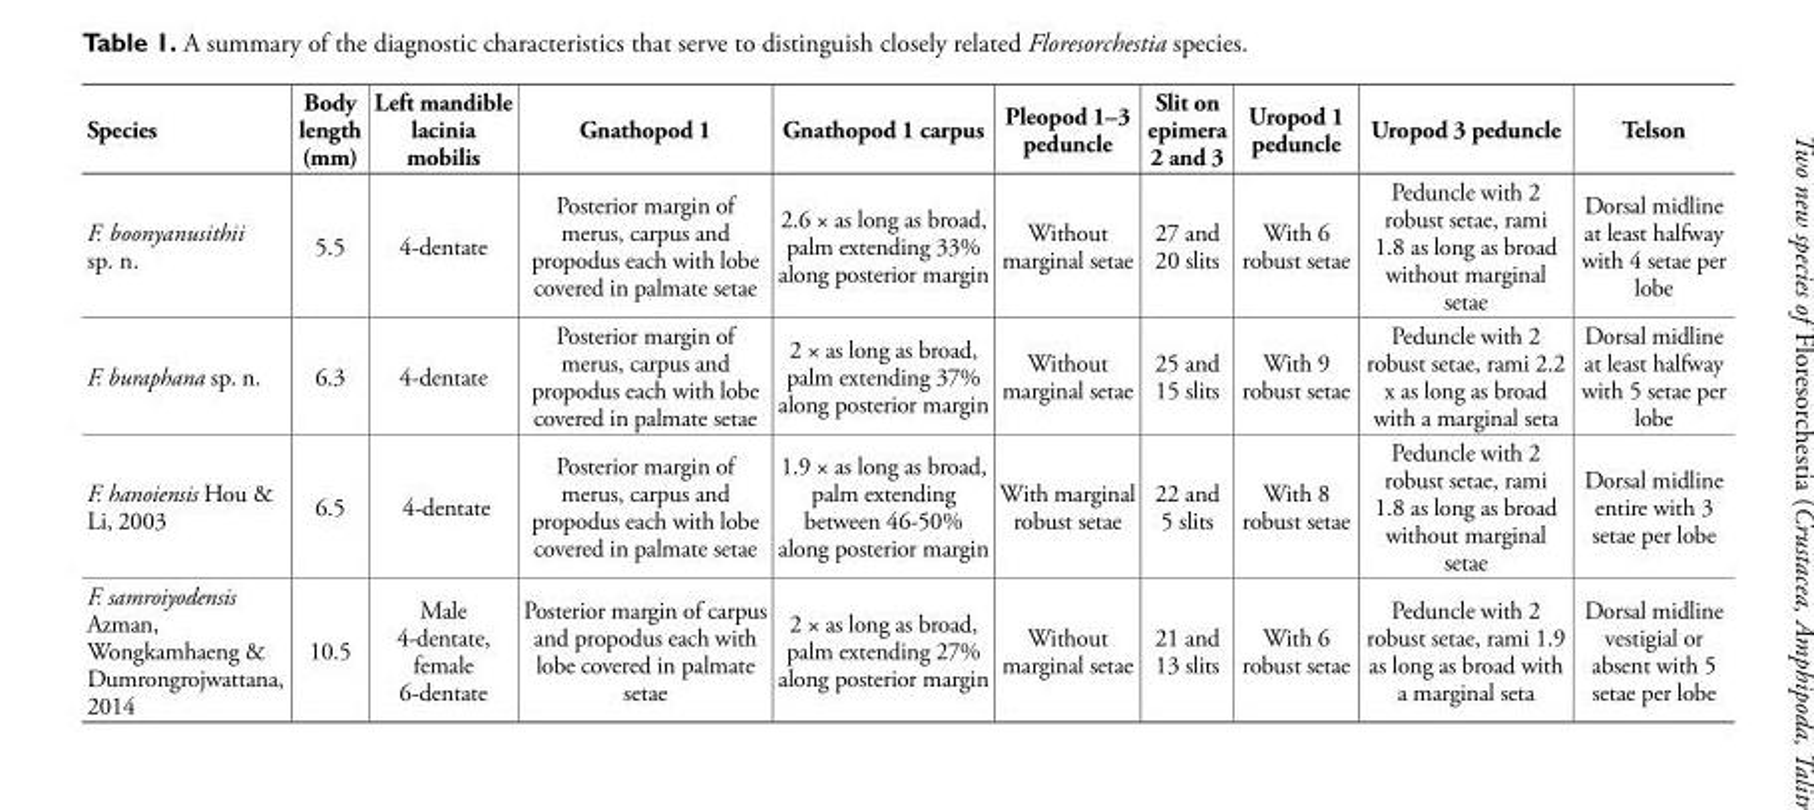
<table><thead><tr><td>Species</td><td>Body length (mm)</td><td>Left mandible lacinia mobilis</td><td>Gnathopod 1</td><td>Gnathopod 1 carpus</td><td>Pleopod 1–3 peduncle</td><td>Slit on epimera 2 and 3</td><td>Uropod 1 peduncle</td><td>Uropod 3 peduncle</td><td>Telson</td></tr></thead><tbody><tr><td>F. boonyanusithii sp. n.</td><td>5.5</td><td>4-dentate</td><td>Posterior margin of merus, carpus and propodus each with lobe covered in palmate setae</td><td>2.6 × as long as broad, palm extending 33% along posterior margin</td><td>Without marginal setae</td><td>27 and 20 slits</td><td>With 6 robust setae</td><td>Peduncle with 2 robust setae, rami 1.8 as long as broad without marginal setae</td><td>Dorsal midline at least halfway with 4 setae per lobe</td></tr><tr><td>F. buraphana sp. n.</td><td>6.3</td><td>4-dentate</td><td>Posterior margin of merus, carpus and propodus each with lobe covered in palmate setae</td><td>2 × as long as broad, palm extending 37% along posterior margin</td><td>Without marginal setae</td><td>25 and 15 slits</td><td>With 9 robust setae</td><td>Peduncle with 2 robust setae, rami 2.2 x as long as broad with a marginal seta</td><td>Dorsal midline at least halfway with 5 setae per lobe</td></tr><tr><td>F. hanoiensis Hou &amp; Li, 2003</td><td>6.5</td><td>4-dentate</td><td>Posterior margin of merus, carpus and propodus each with lobe covered in palmate setae</td><td>1.9 × as long as broad, palm extending between 46-50% along posterior margin</td><td>With marginal robust setae</td><td>22 and 5 slits</td><td>With 8 robust setae</td><td>Peduncle with 2 robust setae, rami 1.8 as long as broad without marginal setae</td><td>Dorsal midline entire with 3 setae per lobe</td></tr><tr><td>F. samroiyodensis Azman, Wongkamhaeng &amp; Dumrongrojwattana, 2014</td><td>10.5</td><td>Male 4-dentate, female 6-dentate</td><td>Posterior margin of carpus and propodus each with lobe covered in palmate setae</td><td>2 × as long as broad, palm extending 27% along posterior margin</td><td>Without marginal setae</td><td>21 and 13 slits</td><td>With 6 robust setae</td><td>Peduncle with 2 robust setae, rami 1.9 as long as broad with a marginal seta</td><td>Dorsal midline vestigial or absent with 5 setae per lobe</td></tr></tbody></table>